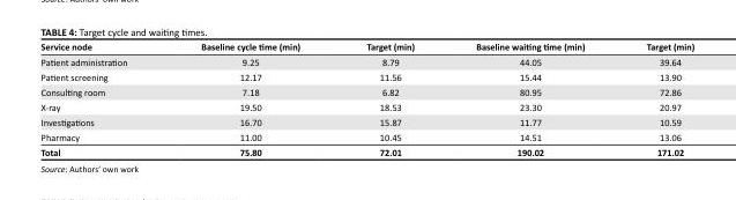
<table><thead><tr><td>Service node</td><td>Baseline cycle time (min)</td><td>Target (min)</td><td>Baseline waiting time (min)</td><td>Target (min)</td></tr></thead><tbody><tr><td>Patient administration</td><td>9.25</td><td>8.79</td><td>44.05</td><td>39.64</td></tr><tr><td>Patient screening</td><td>12.17</td><td>11.56</td><td>15.44</td><td>13.90</td></tr><tr><td>Consulting room</td><td>7.18</td><td>6.82</td><td>80.95</td><td>72.86</td></tr><tr><td>X-ray</td><td>19.50</td><td>18.53</td><td>23.30</td><td>20.97</td></tr><tr><td>Investigations</td><td>16.70</td><td>15.87</td><td>11.77</td><td>10.59</td></tr><tr><td>Pharmacy</td><td>11.00</td><td>10.45</td><td>14.51</td><td>13.06</td></tr><tr><td>Total</td><td>75.80</td><td>72.01</td><td>190.02</td><td>171.02</td></tr></tbody></table>